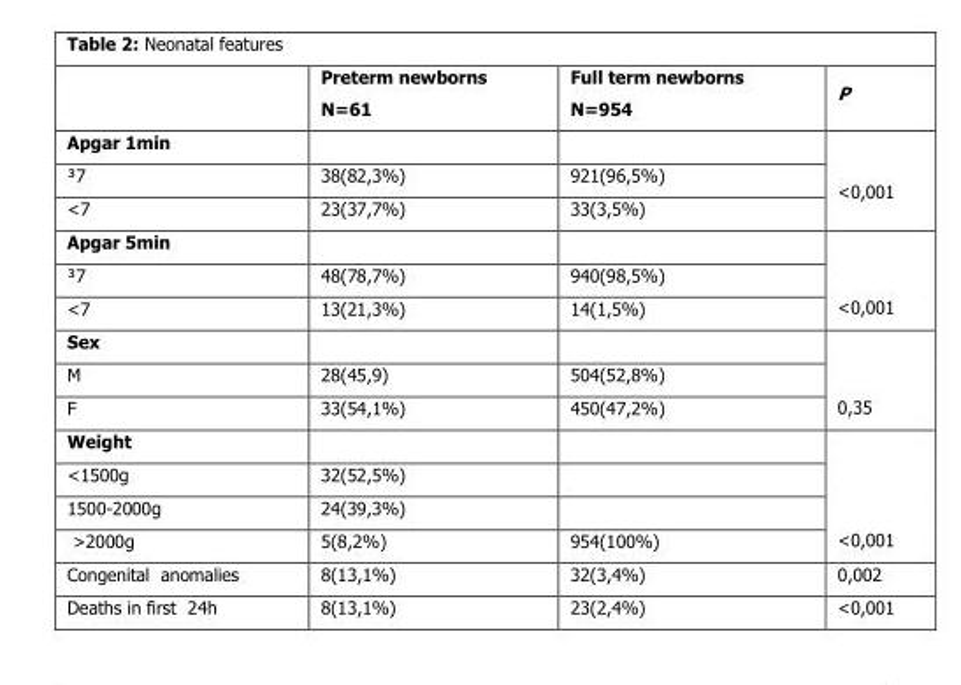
<table><thead><tr><td></td><td>Preterm newborns N=61</td><td>Full term newborns N=954</td><td>P</td></tr></thead><tbody><tr><td colspan="3">Apgar 1min</td><td rowspan="3">&lt;0,001</td></tr><tr><td>³7</td><td>38(82,3%)</td><td>921(96,5%)</td></tr><tr><td>&lt;7</td><td>23(37,7%)</td><td>33(3,5%)</td></tr><tr><td colspan="3">Apgar 5min</td><td rowspan="3">&lt;0,001</td></tr><tr><td>³7</td><td>48(78,7%)</td><td>940(98,5%)</td></tr><tr><td>&lt;7</td><td>13(21,3%)</td><td>14(1,5%)</td></tr><tr><td colspan="3">Sex</td><td rowspan="3">0,35</td></tr><tr><td>M</td><td>28(45,9)</td><td>504(52,8%)</td></tr><tr><td>F</td><td>33(54,1%)</td><td>450(47,2%)</td></tr><tr><td colspan="3">Weight</td><td rowspan="4">&lt;0,001</td></tr><tr><td>&lt;1500g</td><td>32(52,5%)</td><td></td></tr><tr><td>1500-2000g</td><td>24(39,3%)</td><td></td></tr><tr><td>&gt;2000g</td><td>5(8,2%)</td><td>954(100%)</td></tr><tr><td>Congenital anomalies</td><td>8(13,1%)</td><td>32(3,4%)</td><td>0,002</td></tr><tr><td>Deaths in first 24h</td><td>8(13,1%)</td><td>23(2,4%)</td><td>&lt;0,001</td></tr></tbody></table>